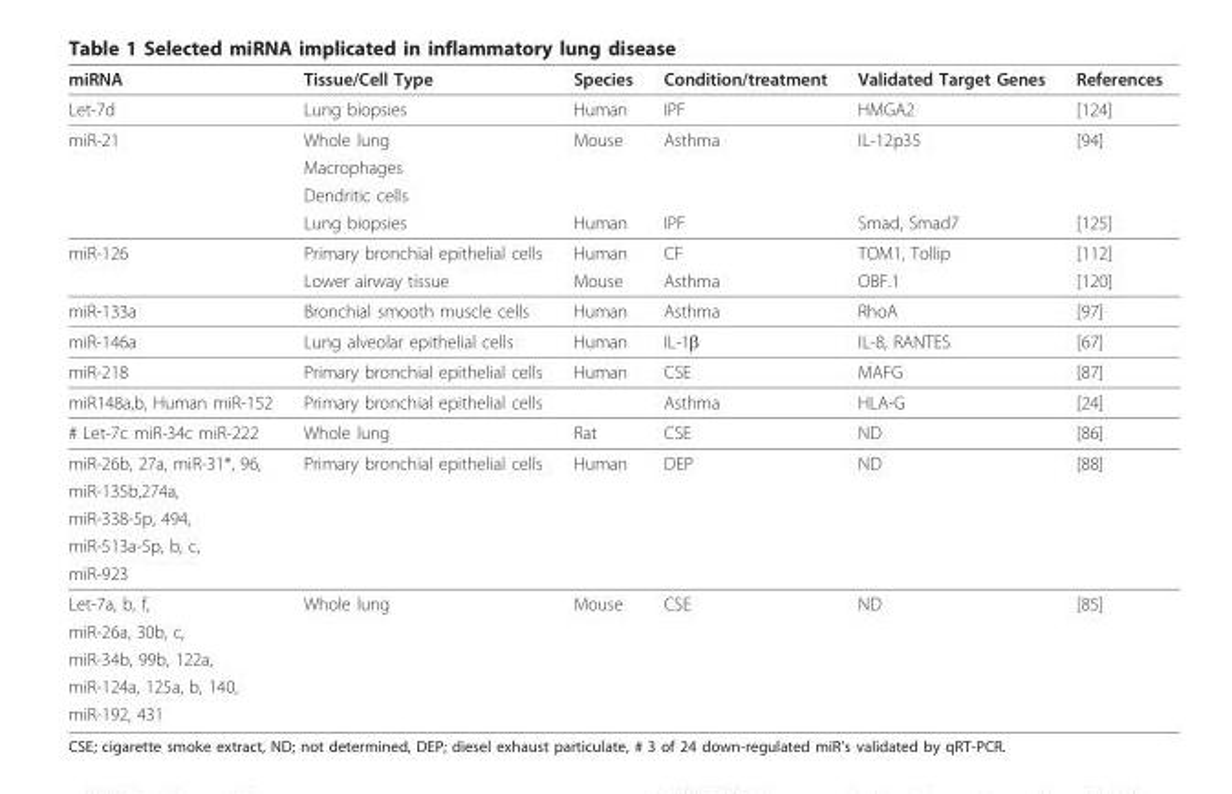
<table><thead><tr><td>miRNA</td><td>Tissue/Cell Type</td><td>Species</td><td>Condition/treatment</td><td>Validated Target Genes</td><td>References</td></tr></thead><tbody><tr><td>Let-7d</td><td>Lung biopsies</td><td>Human</td><td>IPF</td><td>HMGA2</td><td>[124]</td></tr><tr><td rowspan="4">miR-21</td><td>Whole lung</td><td>Mouse</td><td>Asthma</td><td>IL-12p35</td><td>[94]</td></tr><tr><td>Macrophages</td><td></td><td></td><td></td><td></td></tr><tr><td>Dendritic cells</td><td></td><td></td><td></td><td></td></tr><tr><td>Lung biopsies</td><td>Human</td><td>IPF</td><td>Smad, Smad7</td><td>[125]</td></tr><tr><td rowspan="2">miR-126</td><td>Primary bronchial epithelial cells</td><td>Human</td><td>CF</td><td>TOM1, Tollip</td><td>[112]</td></tr><tr><td>Lower airway tissue</td><td>Mouse</td><td>Asthma</td><td>OBF.1</td><td>[120]</td></tr><tr><td>miR-133a</td><td>Bronchial smooth muscle cells</td><td>Human</td><td>Asthma</td><td>RhoA</td><td>[97]</td></tr><tr><td>miR-146a</td><td>Lung alveolar epithelial cells</td><td>Human</td><td>IL-1β</td><td>IL-8, RANTES</td><td>[67]</td></tr><tr><td>miR-218</td><td>Primary bronchial epithelial cells</td><td>Human</td><td>CSE</td><td>MAFG</td><td>[87]</td></tr><tr><td>miR148a,b, Human miR-152</td><td>Primary bronchial epithelial cells</td><td></td><td>Asthma</td><td>HLA-G</td><td>[24]</td></tr><tr><td># Let-7c miR-34c miR-222</td><td>Whole lung</td><td>Rat</td><td>CSE</td><td>ND</td><td>[86]</td></tr><tr><td>miR-26b, 27a, miR-31*, 96,</td><td>Primary bronchial epithelial cells</td><td>Human</td><td>DEP</td><td>ND</td><td>[88]</td></tr><tr><td colspan="6">miR-135b,274a,</td></tr><tr><td colspan="6">miR-338-5p, 494,</td></tr><tr><td colspan="6">miR-513a-5p, b, c,</td></tr><tr><td colspan="6">miR-923</td></tr><tr><td>Let-7a, b, f,</td><td>Whole lung</td><td>Mouse</td><td>CSE</td><td>ND</td><td>[85]</td></tr><tr><td colspan="6">miR-26a, 30b, c,</td></tr><tr><td colspan="6">miR-34b, 99b, 122a,</td></tr><tr><td colspan="6">miR-124a, 125a, b, 140,</td></tr><tr><td>miR-192, 431</td><td></td><td></td><td></td><td></td><td></td></tr></tbody></table>